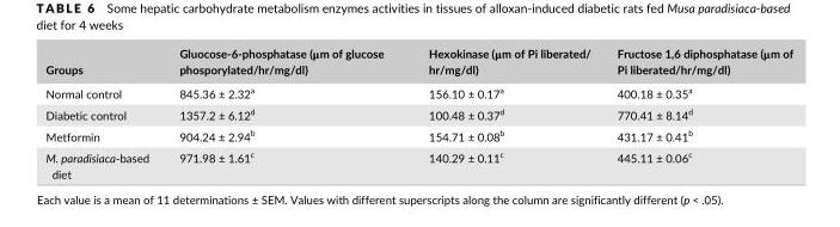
<table><thead><tr><td>Groups</td><td>Gluocose- 6- phosphatase (μm of glucose phosporylated/hr/mg/dl)</td><td>Hexokinase (μm of Pi liberated/ hr/mg/dl)</td><td>Fructose 1,6 diphosphatase (μm of Pi liberated/hr/mg/dl)</td></tr></thead><tbody><tr><td>Normal control</td><td>845.36 ± 2.32<sup>a</sup></td><td>156.10 ± 0.17<sup>a</sup></td><td>400.18 ± 0.35<sup>a</sup></td></tr><tr><td>Diabetic control</td><td>1357.2 ± 6.12<sup>d</sup></td><td>100.48 ± 0.37<sup>d</sup></td><td>770.41 ± 8.14<sup>d</sup></td></tr><tr><td>Metformin</td><td>904.24 ± 2.94<sup>b</sup></td><td>154.71 ± 0.08<sup>b</sup></td><td>431.17 ± 0.41<sup>b</sup></td></tr><tr><td>M. paradisiaca- based diet</td><td>971.98 ± 1.61<sup>c</sup></td><td>140.29 ± 0.11<sup>c</sup></td><td>445.11 ± 0.06<sup>c</sup></td></tr></tbody></table>